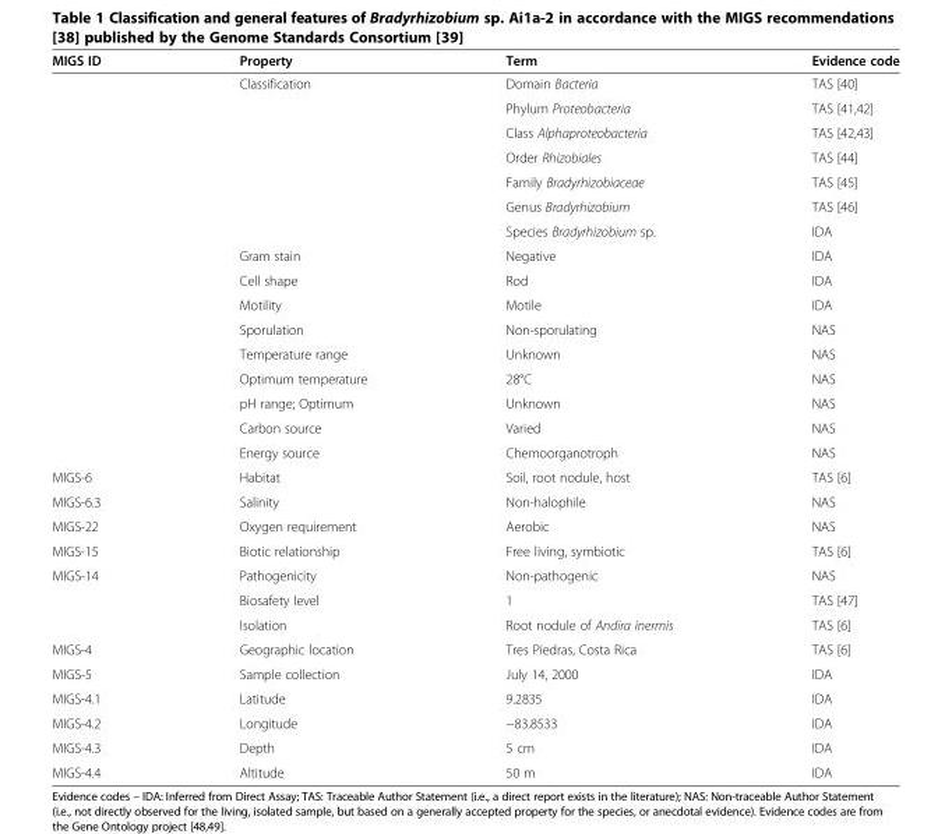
<table><thead><tr><td>MIGS ID</td><td>Property</td><td>Term</td><td>Evidence code</td></tr></thead><tbody><tr><td></td><td>Classification</td><td>Domain Bacteria</td><td>TAS [40]</td></tr><tr><td rowspan="6"></td><td rowspan="6"></td><td>Phylum Proteobacteria</td><td>TAS [41,42]</td></tr><tr><td>Class Alphaproteobacteria</td><td>TAS [42,43]</td></tr><tr><td>Order Rhizobiales</td><td>TAS [44]</td></tr><tr><td>Family Bradyrhizobiaceae</td><td>TAS [45]</td></tr><tr><td>Genus Bradyrhizobium</td><td>TAS [46]</td></tr><tr><td>Species Bradyrhizobium sp.</td><td>IDA</td></tr><tr><td></td><td>Gram stain</td><td>Negative</td><td>IDA</td></tr><tr><td></td><td>Cell shape</td><td>Rod</td><td>IDA</td></tr><tr><td></td><td>Motility</td><td>Motile</td><td>IDA</td></tr><tr><td></td><td>Sporulation</td><td>Non-sporulating</td><td>NAS</td></tr><tr><td></td><td>Temperature range</td><td>Unknown</td><td>NAS</td></tr><tr><td></td><td>Optimum temperature</td><td>28°C</td><td>NAS</td></tr><tr><td></td><td>pH range; Optimum</td><td>Unknown</td><td>NAS</td></tr><tr><td></td><td>Carbon source</td><td>Varied</td><td>NAS</td></tr><tr><td></td><td>Energy source</td><td>Chemoorganotroph</td><td>NAS</td></tr><tr><td>MIGS-6</td><td>Habitat</td><td>Soil, root nodule, host</td><td>TAS [6]</td></tr><tr><td>MIGS-6.3</td><td>Salinity</td><td>Non-halophile</td><td>NAS</td></tr><tr><td>MIGS-22</td><td>Oxygen requirement</td><td>Aerobic</td><td>NAS</td></tr><tr><td>MIGS-15</td><td>Biotic relationship</td><td>Free living, symbiotic</td><td>TAS [6]</td></tr><tr><td rowspan="3">MIGS-14</td><td>Pathogenicity</td><td>Non-pathogenic</td><td>NAS</td></tr><tr><td>Biosafety level</td><td>1</td><td>TAS [47]</td></tr><tr><td>Isolation</td><td>Root nodule of Andira inermis</td><td>TAS [6]</td></tr><tr><td>MIGS-4</td><td>Geographic location</td><td>Tres Piedras, Costa Rica</td><td>TAS [6]</td></tr><tr><td>MIGS-5</td><td>Sample collection</td><td>July 14, 2000</td><td>IDA</td></tr><tr><td>MIGS-4.1</td><td>Latitude</td><td>9.2835</td><td>IDA</td></tr><tr><td>MIGS-4.2</td><td>Longitude</td><td>−83.8533</td><td>IDA</td></tr><tr><td>MIGS-4.3</td><td>Depth</td><td>5 cm</td><td>IDA</td></tr><tr><td>MIGS-4.4</td><td>Altitude</td><td>50 m</td><td>IDA</td></tr></tbody></table>